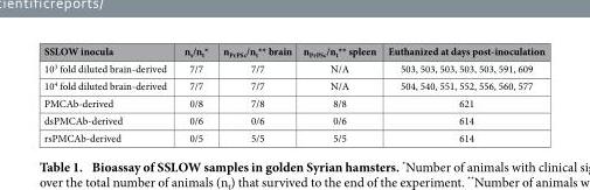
<table><thead><tr><td>SSLOW inocula</td><td>n<sub>s</sub>/n<sub>t</sub>*</td><td>n<sub>PrPSc</sub>/n<sub>t</sub>** brain</td><td>n<sub>PrPSc</sub>/n<sub>t</sub>** spleen</td><td>Euthanized at days post-inoculation</td></tr></thead><tbody><tr><td>10<sup>3</sup> fold diluted brain-derived</td><td>7/7</td><td>7/7</td><td>N/A</td><td>503, 503, 503, 503, 503, 591, 609</td></tr><tr><td>10<sup>4</sup> fold diluted brain-derived</td><td>7/7</td><td>7/7</td><td>N/A</td><td>504, 540, 551, 552, 556, 560, 577</td></tr><tr><td>PMCAb-derived</td><td>0/8</td><td>7/8</td><td>8/8</td><td>621</td></tr><tr><td>dsPMCAb-derived</td><td>0/6</td><td>0/6</td><td>0/6</td><td>614</td></tr><tr><td>rsPMCAb-derived</td><td>0/5</td><td>5/5</td><td>5/5</td><td>614</td></tr></tbody></table>